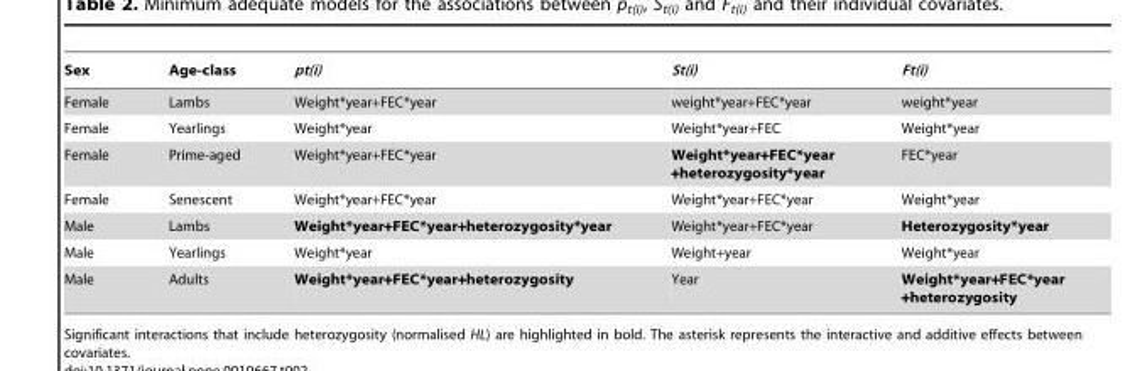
<table><thead><tr><td>Sex</td><td>Age-class</td><td>pt(i)</td><td>St(i)</td><td>Ft(i)</td></tr></thead><tbody><tr><td>Female</td><td>Lambs</td><td>Weight*year+FEC*year</td><td>weight*year+FEC*year</td><td>weight*year</td></tr><tr><td>Female</td><td>Yearlings</td><td>Weight*year</td><td>Weight*year+FEC</td><td>Weight*year</td></tr><tr><td>Female</td><td>Prime-aged</td><td>Weight*year+FEC*year</td><td>Weight*year+FEC*year +heterozygosity*year</td><td>FEC*year</td></tr><tr><td>Female</td><td>Senescent</td><td>Weight*year+FEC*year</td><td>Weight*year+FEC*year</td><td>Weight*year</td></tr><tr><td>Male</td><td>Lambs</td><td>Weight*year+FEC*year+heterozygosity*year</td><td>Weight*year+FEC*year</td><td>Heterozygosity*year</td></tr><tr><td>Male</td><td>Yearlings</td><td>Weight*year</td><td>Weight+year</td><td>Weight*year</td></tr><tr><td>Male</td><td>Adults</td><td>Weight*year+FEC*year+heterozygosity</td><td>Year</td><td>Weight*year+FEC*year +heterozygosity</td></tr></tbody></table>